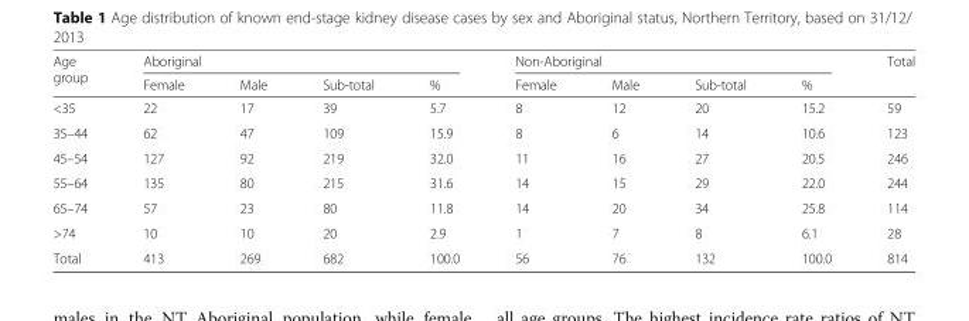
<table><thead><tr><td rowspan="2">Age group</td><td colspan="4">Aboriginal</td><td colspan="4">Non-Aboriginal</td><td rowspan="2">Total</td></tr><tr><td>Female</td><td>Male</td><td>Sub-total</td><td>%</td><td>Female</td><td>Male</td><td>Sub-total</td><td>%</td></tr></thead><tbody><tr><td>&lt;35</td><td>22</td><td>17</td><td>39</td><td>5.7</td><td>8</td><td>12</td><td>20</td><td>15.2</td><td>59</td></tr><tr><td>35–44</td><td>62</td><td>47</td><td>109</td><td>15.9</td><td>8</td><td>6</td><td>14</td><td>10.6</td><td>123</td></tr><tr><td>45–54</td><td>127</td><td>92</td><td>219</td><td>32.0</td><td>11</td><td>16</td><td>27</td><td>20.5</td><td>246</td></tr><tr><td>55–64</td><td>135</td><td>80</td><td>215</td><td>31.6</td><td>14</td><td>15</td><td>29</td><td>22.0</td><td>244</td></tr><tr><td>65–74</td><td>57</td><td>23</td><td>80</td><td>11.8</td><td>14</td><td>20</td><td>34</td><td>25.8</td><td>114</td></tr><tr><td>&gt;74</td><td>10</td><td>10</td><td>20</td><td>2.9</td><td>1</td><td>7</td><td>8</td><td>6.1</td><td>28</td></tr><tr><td>Total</td><td>413</td><td>269</td><td>682</td><td>100.0</td><td>56</td><td>76</td><td>132</td><td>100.0</td><td>814</td></tr></tbody></table>